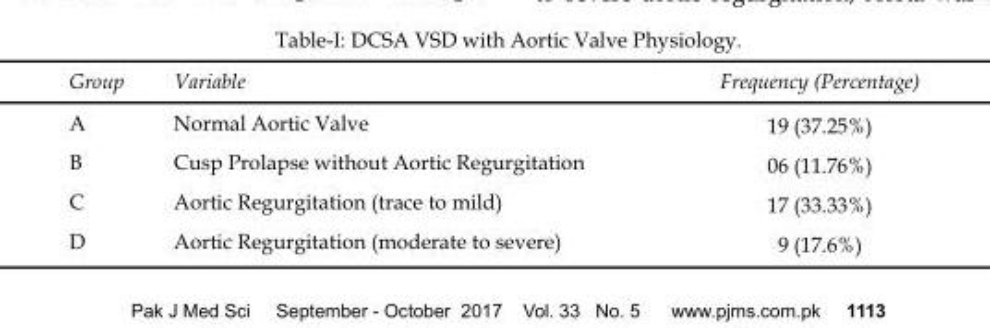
<table><thead><tr><td>Group</td><td>Variable</td><td>Frequency (Percentage)</td></tr></thead><tbody><tr><td>A</td><td>Normal Aortic Valve</td><td>19 (37.25%)</td></tr><tr><td>B</td><td>Cusp Prolapse without Aortic Regurgitation</td><td>06 (11.76%)</td></tr><tr><td>C</td><td>Aortic Regurgitation (trace to mild)</td><td>17 (33.33%)</td></tr><tr><td>D</td><td>Aortic Regurgitation (moderate to severe)</td><td>9 (17.6%)</td></tr></tbody></table>